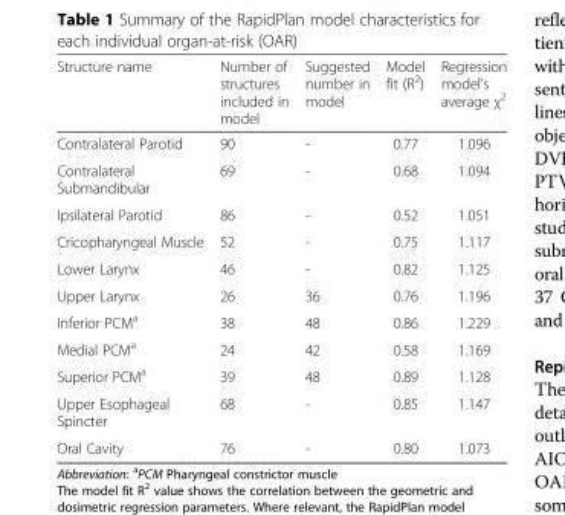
<table><thead><tr><td>Structure name</td><td>Number of structures included in model</td><td>Suggested number in model</td><td>Model fit (R<sup>2</sup>)</td><td>Regression model’s average χ<sup>2</sup></td></tr></thead><tbody><tr><td>Contralateral Parotid</td><td>90</td><td>-</td><td>0.77</td><td>1.096</td></tr><tr><td>Contralateral Submandibular</td><td>69</td><td>-</td><td>0.68</td><td>1.094</td></tr><tr><td>Ipsilateral Parotid</td><td>86</td><td>-</td><td>0.52</td><td>1.051</td></tr><tr><td>Cricopharyngeal Muscle</td><td>52</td><td>-</td><td>0.75</td><td>1.117</td></tr><tr><td>Lower Larynx</td><td>46</td><td>-</td><td>0.82</td><td>1.125</td></tr><tr><td>Upper Larynx</td><td>26</td><td>36</td><td>0.76</td><td>1.196</td></tr><tr><td>Inferior PCM<sup>a</sup></td><td>38</td><td>48</td><td>0.86</td><td>1.229</td></tr><tr><td>Medial PCM<sup>a</sup></td><td>24</td><td>42</td><td>0.58</td><td>1.169</td></tr><tr><td>Superior PCM<sup>a</sup></td><td>39</td><td>48</td><td>0.89</td><td>1.128</td></tr><tr><td>Upper Esophageal Spincter</td><td>68</td><td>-</td><td>0.85</td><td>1.147</td></tr><tr><td>Oral Cavity</td><td>76</td><td>-</td><td>0.80</td><td>1.073</td></tr></tbody></table>